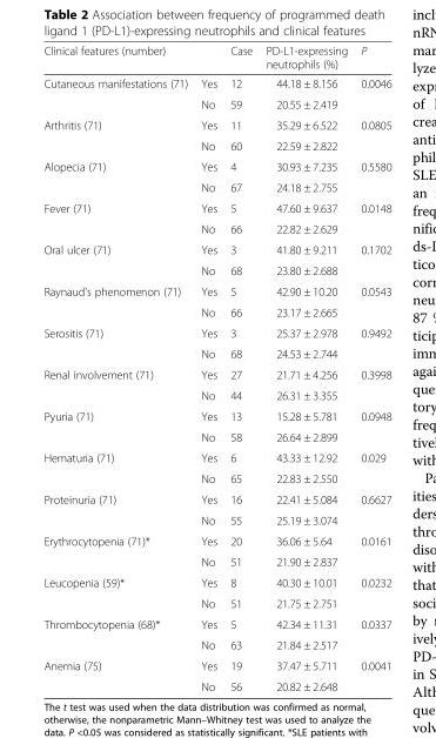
<table><thead><tr><td>Clinical features (number)</td><td></td><td>Case</td><td>PD-L1-expressing neutrophils (%)</td><td>P</td></tr></thead><tbody><tr><td rowspan="2">Cutaneous manifestations (71)</td><td>Yes</td><td>12</td><td>44.18 ± 8.156</td><td rowspan="2">0.0046</td></tr><tr><td>No</td><td>59</td><td>20.55 ± 2.419</td></tr><tr><td rowspan="2">Arthritis (71)</td><td>Yes</td><td>11</td><td>35.29 ± 6.522</td><td rowspan="2">0.0805</td></tr><tr><td>No</td><td>60</td><td>22.59 ± 2.822</td></tr><tr><td rowspan="2">Alopecia (71)</td><td>Yes</td><td>4</td><td>30.93 ± 7.235</td><td rowspan="2">0.5580</td></tr><tr><td>No</td><td>67</td><td>24.18 ± 2.755</td></tr><tr><td rowspan="2">Fever (71)</td><td>Yes</td><td>5</td><td>47.60 ± 9.637</td><td rowspan="2">0.0148</td></tr><tr><td>No</td><td>66</td><td>22.82 ± 2.629</td></tr><tr><td rowspan="2">Oral ulcer (71)</td><td>Yes</td><td>3</td><td>41.80 ± 9.211</td><td rowspan="2">0.1702</td></tr><tr><td>No</td><td>68</td><td>23.80 ± 2.688</td></tr><tr><td rowspan="2">Raynaud&#x27;s phenomenon (71)</td><td>Yes</td><td>5</td><td>42.90 ± 10.20</td><td rowspan="2">0.0543</td></tr><tr><td>No</td><td>66</td><td>23.17 ± 2.665</td></tr><tr><td rowspan="2">Serositis (71)</td><td>Yes</td><td>3</td><td>25.37 ± 2.978</td><td rowspan="2">0.9492</td></tr><tr><td>No</td><td>68</td><td>24.53 ± 2.744</td></tr><tr><td rowspan="2">Renal involvement (71)</td><td>Yes</td><td>27</td><td>21.71 ± 4.256</td><td rowspan="2">0.3998</td></tr><tr><td>No</td><td>44</td><td>26.31 ± 3.355</td></tr><tr><td rowspan="2">Pyuria (71)</td><td>Yes</td><td>13</td><td>15.28 ± 5.781</td><td rowspan="2">0.0948</td></tr><tr><td>No</td><td>58</td><td>26.64 ± 2.899</td></tr><tr><td rowspan="2">Hematuria (71)</td><td>Yes</td><td>6</td><td>43.33 ± 12.92</td><td rowspan="2">0.029</td></tr><tr><td>No</td><td>65</td><td>22.83 ± 2.550</td></tr><tr><td rowspan="2">Proteinuria (71)</td><td>Yes</td><td>16</td><td>22.41 ± 5.084</td><td rowspan="2">0.6627</td></tr><tr><td>No</td><td>55</td><td>25.19 ± 3.074</td></tr><tr><td rowspan="2">Erythrocytopenia (71)*</td><td>Yes</td><td>20</td><td>36.06 ± 5.64</td><td rowspan="2">0.0161</td></tr><tr><td>No</td><td>51</td><td>21.90 ± 2.837</td></tr><tr><td rowspan="2">Leucopenia (59)*</td><td>Yes</td><td>8</td><td>40.30 ± 10.01</td><td rowspan="2">0.0232</td></tr><tr><td>No</td><td>51</td><td>21.75 ± 2.751</td></tr><tr><td rowspan="2">Thrombocytopenia (68)*</td><td>Yes</td><td>5</td><td>42.34 ± 11.31</td><td rowspan="2">0.0337</td></tr><tr><td>No</td><td>63</td><td>21.84 ± 2.517</td></tr><tr><td rowspan="2">Anemia (75)</td><td>Yes</td><td>19</td><td>37.47 ± 5.711</td><td rowspan="2">0.0041</td></tr><tr><td>No</td><td>56</td><td>20.82 ± 2.648</td></tr></tbody></table>